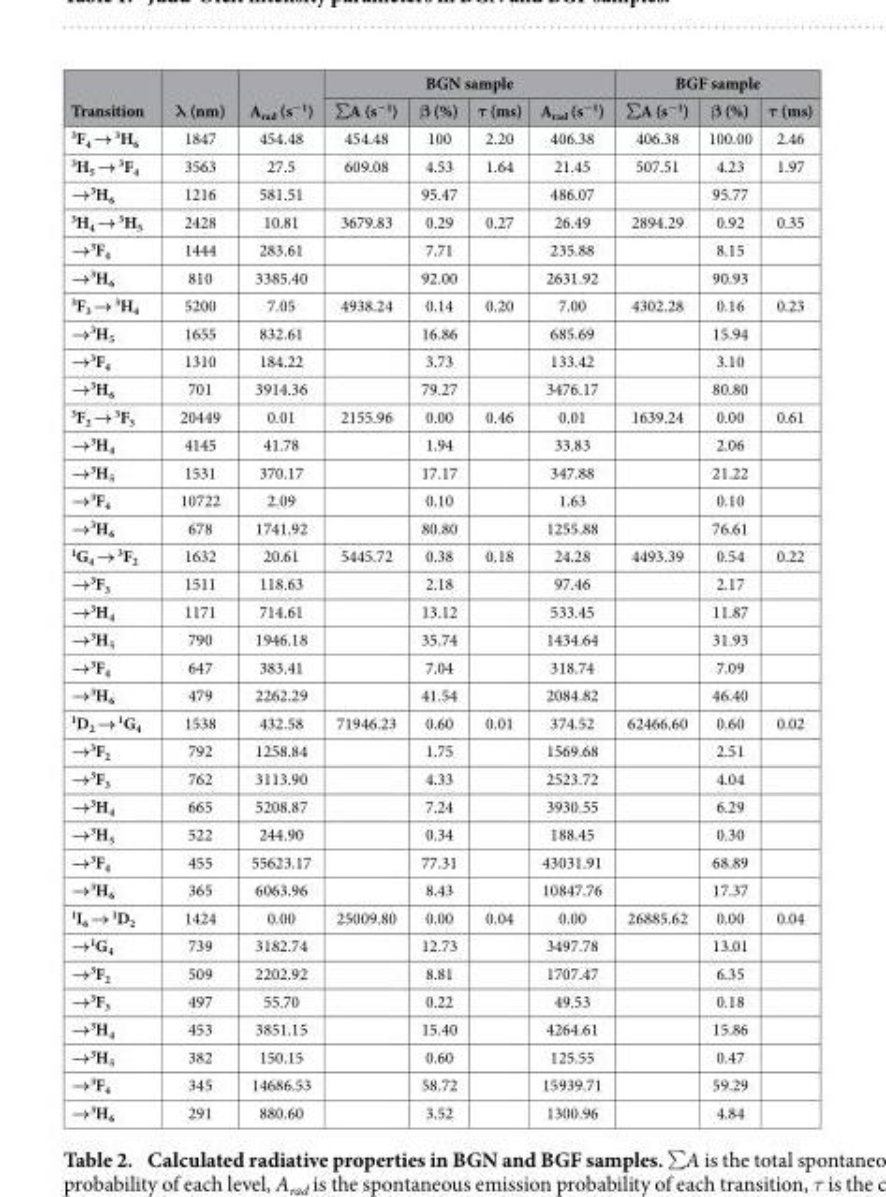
<table><thead><tr><td rowspan="2">Transition</td><td rowspan="2">λ (nm)</td><td rowspan="2">A<sub>rad</sub> (s<sup>−1</sup>)</td><td colspan="4">BGN sample</td><td colspan="3">BGF sample</td></tr><tr><td>∑A (s<sup>−1</sup>)</td><td>β (%)</td><td>τ (ms)</td><td>A<sub>rad</sub> (s<sup>−1</sup>)</td><td>∑A (s<sup>−1</sup>)</td><td>β (%)</td><td>τ (ms)</td></tr></thead><tbody><tr><td><sup>3</sup>F<sub>4</sub> → <sup>3</sup>H<sub>6</sub></td><td>1847</td><td>454.48</td><td>454.48</td><td>100</td><td>2.20</td><td>406.38</td><td>406.38</td><td>100.00</td><td>2.46</td></tr><tr><td><sup>3</sup>H<sub>5</sub> → <sup>3</sup>F<sub>4</sub></td><td>3563</td><td>27.5</td><td>609.08</td><td>4.53</td><td>1.64</td><td>21.45</td><td>507.51</td><td>4.23</td><td>1.97</td></tr><tr><td>→<sup>3</sup>H<sub>6</sub></td><td>1216</td><td>581.51</td><td></td><td>95.47</td><td></td><td>486.07</td><td></td><td>95.77</td><td></td></tr><tr><td><sup>3</sup>H<sub>4</sub> → <sup>3</sup>H<sub>5</sub></td><td>2428</td><td>10.81</td><td>3679.83</td><td>0.29</td><td>0.27</td><td>26.49</td><td>2894.29</td><td>0.92</td><td>0.35</td></tr><tr><td>→<sup>3</sup>F<sub>4</sub></td><td>1444</td><td>283.61</td><td></td><td>7.71</td><td></td><td>235.88</td><td></td><td>8.15</td><td></td></tr><tr><td>→<sup>3</sup>H<sub>6</sub></td><td>810</td><td>3385.40</td><td></td><td>92.00</td><td></td><td>2631.92</td><td></td><td>90.93</td><td></td></tr><tr><td><sup>3</sup>F<sub>3</sub> → <sup>3</sup>H<sub>4</sub></td><td>5200</td><td>7.05</td><td>4938.24</td><td>0.14</td><td>0.20</td><td>7.00</td><td>4302.28</td><td>0.16</td><td>0.23</td></tr><tr><td>→<sup>3</sup>H<sub>5</sub></td><td>1655</td><td>832.61</td><td></td><td>16.86</td><td></td><td>685.69</td><td></td><td>15.94</td><td></td></tr><tr><td>→<sup>3</sup>F<sub>4</sub></td><td>1310</td><td>184.22</td><td></td><td>3.73</td><td></td><td>133.42</td><td></td><td>3.10</td><td></td></tr><tr><td>→<sup>3</sup>H<sub>6</sub></td><td>701</td><td>3914.36</td><td></td><td>79.27</td><td></td><td>3476.17</td><td></td><td>80.80</td><td></td></tr><tr><td><sup>3</sup>F<sub>2</sub> → <sup>3</sup>F<sub>3</sub></td><td>20449</td><td>0.01</td><td>2155.96</td><td>0.00</td><td>0.46</td><td>0.01</td><td>1639.24</td><td>0.00</td><td>0.61</td></tr><tr><td>→<sup>3</sup>H<sub>4</sub></td><td>4145</td><td>41.78</td><td></td><td>1.94</td><td></td><td>33.83</td><td></td><td>2.06</td><td></td></tr><tr><td>→<sup>3</sup>H<sub>5</sub></td><td>1531</td><td>370.17</td><td></td><td>17.17</td><td></td><td>347.88</td><td></td><td>21.22</td><td></td></tr><tr><td>→<sup>3</sup>F<sub>4</sub></td><td>10722</td><td>2.09</td><td></td><td>0.10</td><td></td><td>1.63</td><td></td><td>0.10</td><td></td></tr><tr><td>→<sup>3</sup>H<sub>6</sub></td><td>678</td><td>1741.92</td><td></td><td>80.80</td><td></td><td>1255.88</td><td></td><td>76.61</td><td></td></tr><tr><td><sup>1</sup>G<sub>4</sub> → <sup>3</sup>F<sub>2</sub></td><td>1632</td><td>20.61</td><td>5445.72</td><td>0.38</td><td>0.18</td><td>24.28</td><td>4493.39</td><td>0.54</td><td>0.22</td></tr><tr><td>→<sup>3</sup>F<sub>3</sub></td><td>1511</td><td>118.63</td><td></td><td>2.18</td><td></td><td>97.46</td><td></td><td>2.17</td><td></td></tr><tr><td>→<sup>3</sup>H<sub>4</sub></td><td>1171</td><td>714.61</td><td></td><td>13.12</td><td></td><td>533.45</td><td></td><td>11.87</td><td></td></tr><tr><td>→<sup>3</sup>H<sub>5</sub></td><td>790</td><td>1946.18</td><td></td><td>35.74</td><td></td><td>1434.64</td><td></td><td>31.93</td><td></td></tr><tr><td>→<sup>3</sup>F<sub>4</sub></td><td>647</td><td>383.41</td><td></td><td>7.04</td><td></td><td>318.74</td><td></td><td>7.09</td><td></td></tr><tr><td>→<sup>3</sup>H<sub>6</sub></td><td>479</td><td>2262.29</td><td></td><td>41.54</td><td></td><td>2084.82</td><td></td><td>46.40</td><td></td></tr><tr><td><sup>1</sup>D<sub>2</sub> → <sup>1</sup>G<sub>4</sub></td><td>1538</td><td>432.58</td><td>71946.23</td><td>0.60</td><td>0.01</td><td>374.52</td><td>62466.60</td><td>0.60</td><td>0.02</td></tr><tr><td>→<sup>3</sup>F<sub>2</sub></td><td>792</td><td>1258.84</td><td></td><td>1.75</td><td></td><td>1569.68</td><td></td><td>2.51</td><td></td></tr><tr><td>→<sup>3</sup>F<sub>3</sub></td><td>762</td><td>3113.90</td><td></td><td>4.33</td><td></td><td>2523.72</td><td></td><td>4.04</td><td></td></tr><tr><td>→<sup>3</sup>H<sub>4</sub></td><td>665</td><td>5208.87</td><td></td><td>7.24</td><td></td><td>3930.55</td><td></td><td>6.29</td><td></td></tr><tr><td>→<sup>3</sup>H<sub>5</sub></td><td>522</td><td>244.90</td><td></td><td>0.34</td><td></td><td>188.45</td><td></td><td>0.30</td><td></td></tr><tr><td>→<sup>3</sup>F<sub>4</sub></td><td>455</td><td>55623.17</td><td></td><td>77.31</td><td></td><td>43031.91</td><td></td><td>68.89</td><td></td></tr><tr><td>→<sup>3</sup>H<sub>6</sub></td><td>365</td><td>6063.96</td><td></td><td>8.43</td><td></td><td>10847.76</td><td></td><td>17.37</td><td></td></tr><tr><td><sup>1</sup>I<sub>6</sub> → <sup>1</sup>D<sub>2</sub></td><td>1424</td><td>0.00</td><td>25009.80</td><td>0.00</td><td>0.04</td><td>0.00</td><td>26885.62</td><td>0.00</td><td>0.04</td></tr><tr><td>→<sup>1</sup>G<sub>4</sub></td><td>739</td><td>3182.74</td><td></td><td>12.73</td><td></td><td>3497.78</td><td></td><td>13.01</td><td></td></tr><tr><td>→<sup>3</sup>F<sub>2</sub></td><td>509</td><td>2202.92</td><td></td><td>8.81</td><td></td><td>1707.47</td><td></td><td>6.35</td><td></td></tr><tr><td>→<sup>3</sup>F<sub>3</sub></td><td>497</td><td>55.70</td><td></td><td>0.22</td><td></td><td>49.53</td><td></td><td>0.18</td><td></td></tr><tr><td>→<sup>3</sup>H<sub>4</sub></td><td>453</td><td>3851.15</td><td></td><td>15.40</td><td></td><td>4264.61</td><td></td><td>15.86</td><td></td></tr><tr><td>→<sup>3</sup>H<sub>5</sub></td><td>382</td><td>150.15</td><td></td><td>0.60</td><td></td><td>125.55</td><td></td><td>0.47</td><td></td></tr><tr><td>→<sup>3</sup>F<sub>4</sub></td><td>345</td><td>14686.53</td><td></td><td>58.72</td><td></td><td>15939.71</td><td></td><td>59.29</td><td></td></tr><tr><td>→<sup>3</sup>H<sub>6</sub></td><td>291</td><td>880.60</td><td></td><td>3.52</td><td></td><td>1300.96</td><td></td><td>4.84</td><td></td></tr></tbody></table>